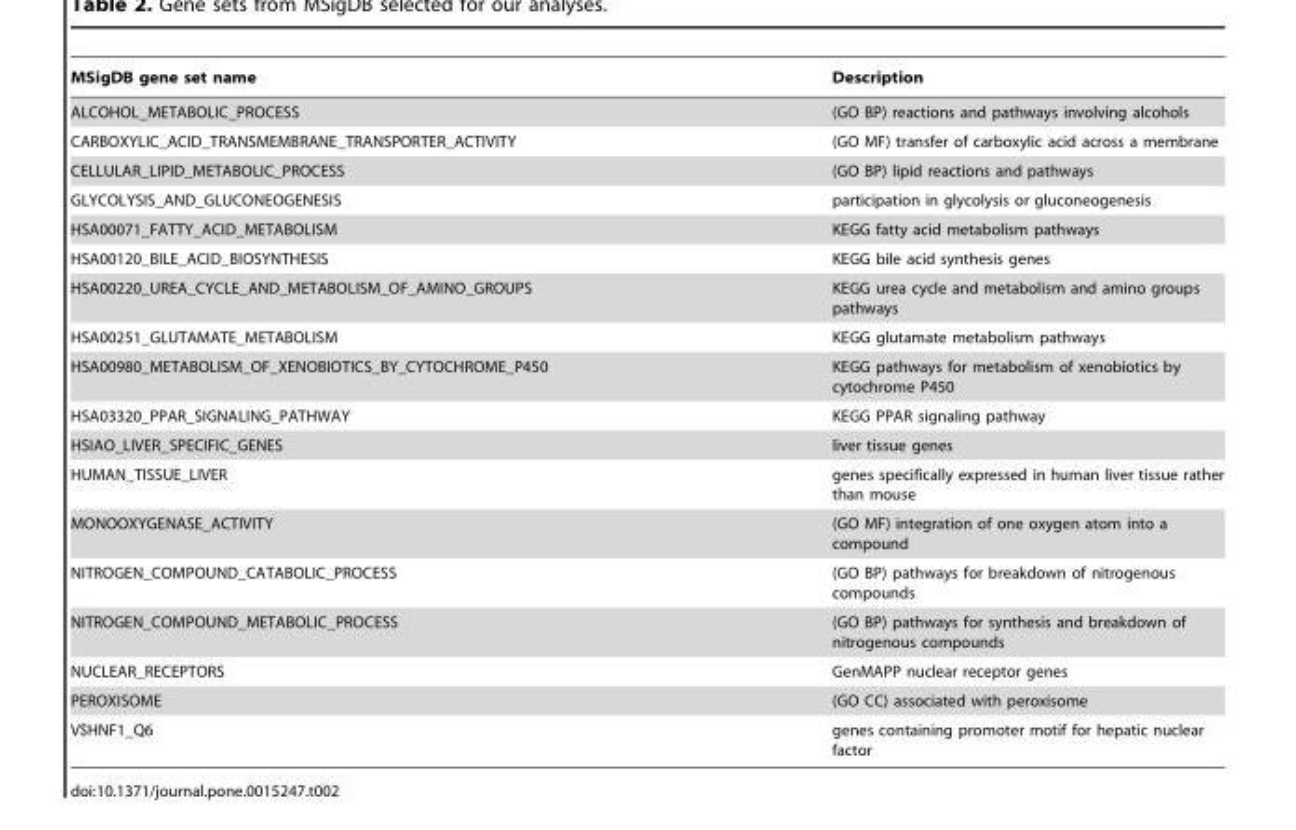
<table><thead><tr><td>MSigDB gene set name</td><td>Description</td></tr></thead><tbody><tr><td>ALCOHOL_METABOLIC_PROCESS</td><td>(GO BP) reactions and pathways involving alcohols</td></tr><tr><td>CARBOXYLIC_ACID_TRANSMEMBRANE_TRANSPORTER_ACTIVITY</td><td>(GO MF) transfer of carboxylic acid across a membrane</td></tr><tr><td>CELLULAR_LIPID_METABOLIC_PROCESS</td><td>(GO BP) lipid reactions and pathways</td></tr><tr><td>GLYCOLYSIS_AND_GLUCONEOGENESIS</td><td>participation in glycolysis or gluconeogenesis</td></tr><tr><td>HSA00071_FATTY_ACID_METABOLISM</td><td>KEGG fatty acid metabolism pathways</td></tr><tr><td>HSA00120_BILE_ACID_BIOSYNTHESIS</td><td>KEGG bile acid synthesis genes</td></tr><tr><td>HSA00220_UREA_CYCLE_AND_METABOLISM_OF_AMINO_GROUPS</td><td>KEGG urea cycle and metabolism and amino groups pathways</td></tr><tr><td>HSA00251_GLUTAMATE_METABOLISM</td><td>KEGG glutamate metabolism pathways</td></tr><tr><td>HSA00980_METABOLISM_OF_XENOBIOTICS_BY_CYTOCHROME_P450</td><td>KEGG pathways for metabolism of xenobiotics by cytochrome P450</td></tr><tr><td>HSA03320_PPAR_SIGNALING_PATHWAY</td><td>KEGG PPAR signaling pathway</td></tr><tr><td>HSIAO_LIVER_SPECIFIC_GENES</td><td>liver tissue genes</td></tr><tr><td>HUMAN_TISSUE_LIVER</td><td>genes specifically expressed in human liver tissue rather than mouse</td></tr><tr><td>MONOOXYGENASE_ACTIVITY</td><td>(GO MF) integration of one oxygen atom into a compound</td></tr><tr><td>NITROGEN_COMPOUND_CATABOLIC_PROCESS</td><td>(GO BP) pathways for breakdown of nitrogenous compounds</td></tr><tr><td>NITROGEN_COMPOUND_METABOLIC_PROCESS</td><td>(GO BP) pathways for synthesis and breakdown of nitrogenous compounds</td></tr><tr><td>NUCLEAR_RECEPTORS</td><td>GenMAPP nuclear receptor genes</td></tr><tr><td>PEROXISOME</td><td>(GO CC) associated with peroxisome</td></tr><tr><td>V$HNF1_Q6</td><td>genes containing promoter motif for hepatic nuclear factor</td></tr></tbody></table>